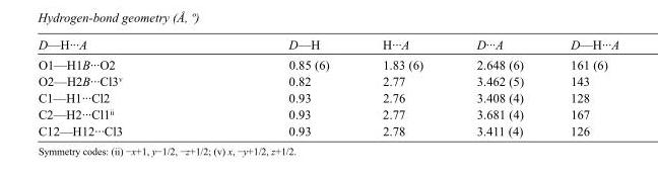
<table><tbody><tr><td>D—H···A</td><td>D—H</td><td>H···A</td><td>D···A</td><td>D—H···A</td></tr><tr><td>O1—H1B···O2</td><td>0.85 (6)</td><td>1.83 (6)</td><td>2.648 (6)</td><td>161 (6)</td></tr><tr><td>O2—H2B···Cl3<sup>v</sup></td><td>0.82</td><td>2.77</td><td>3.462 (5)</td><td>143</td></tr><tr><td>C1—H1···Cl2</td><td>0.93</td><td>2.76</td><td>3.408 (4)</td><td>128</td></tr><tr><td>C2—H2···Cl1<sup>ii</sup></td><td>0.93</td><td>2.77</td><td>3.681 (4)</td><td>167</td></tr><tr><td>C12—H12···Cl3</td><td>0.93</td><td>2.78</td><td>3.411 (4)</td><td>126</td></tr></tbody></table>